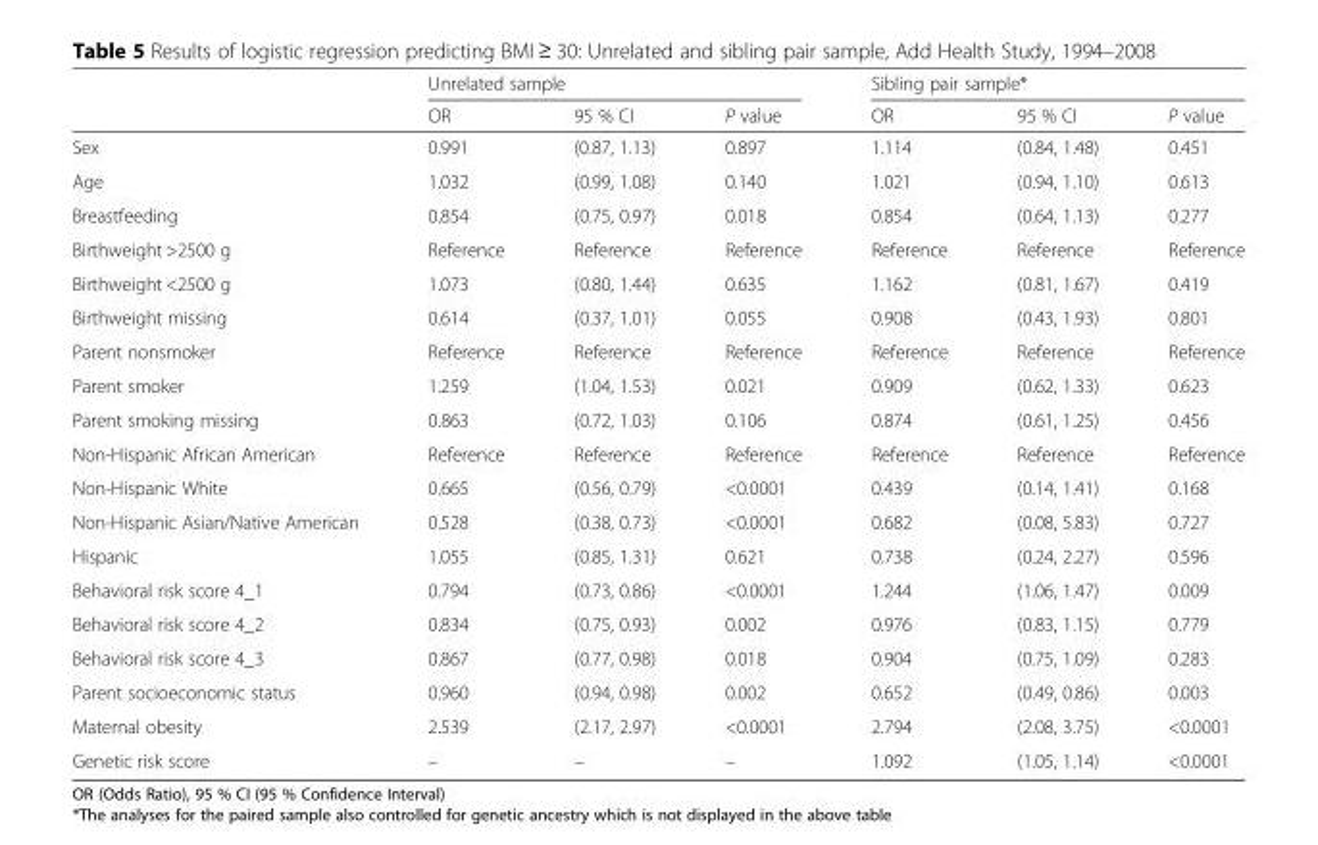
<table><thead><tr><td rowspan="2"></td><td colspan="3">Unrelated sample</td><td colspan="3">Sibling pair sample*</td></tr><tr><td>OR</td><td>95 % CI</td><td>P value</td><td>OR</td><td>95 % CI</td><td>P value</td></tr></thead><tbody><tr><td>Sex</td><td>0.991</td><td>(0.87, 1.13)</td><td>0.897</td><td>1.114</td><td>(0.84, 1.48)</td><td>0.451</td></tr><tr><td>Age</td><td>1.032</td><td>(0.99, 1.08)</td><td>0.140</td><td>1.021</td><td>(0.94, 1.10)</td><td>0.613</td></tr><tr><td>Breastfeeding</td><td>0.854</td><td>(0.75, 0.97)</td><td>0.018</td><td>0.854</td><td>(0.64, 1.13)</td><td>0.277</td></tr><tr><td>Birthweight &gt;2500 g</td><td>Reference</td><td>Reference</td><td>Reference</td><td>Reference</td><td>Reference</td><td>Reference</td></tr><tr><td>Birthweight &lt;2500 g</td><td>1.073</td><td>(0.80, 1.44)</td><td>0.635</td><td>1.162</td><td>(0.81, 1.67)</td><td>0.419</td></tr><tr><td>Birthweight missing</td><td>0.614</td><td>(0.37, 1.01)</td><td>0.055</td><td>0.908</td><td>(0.43, 1.93)</td><td>0.801</td></tr><tr><td>Parent nonsmoker</td><td>Reference</td><td>Reference</td><td>Reference</td><td>Reference</td><td>Reference</td><td>Reference</td></tr><tr><td>Parent smoker</td><td>1.259</td><td>(1.04, 1.53)</td><td>0.021</td><td>0.909</td><td>(0.62, 1.33)</td><td>0.623</td></tr><tr><td>Parent smoking missing</td><td>0.863</td><td>(0.72, 1.03)</td><td>0.106</td><td>0.874</td><td>(0.61, 1.25)</td><td>0.456</td></tr><tr><td>Non-Hispanic African American</td><td>Reference</td><td>Reference</td><td>Reference</td><td>Reference</td><td>Reference</td><td>Reference</td></tr><tr><td>Non-Hispanic White</td><td>0.665</td><td>(0.56, 0.79)</td><td>&lt;0.0001</td><td>0.439</td><td>(0.14, 1.41)</td><td>0.168</td></tr><tr><td>Non-Hispanic Asian/Native American</td><td>0.528</td><td>(0.38, 0.73)</td><td>&lt;0.0001</td><td>0.682</td><td>(0.08, 5.83)</td><td>0.727</td></tr><tr><td>Hispanic</td><td>1.055</td><td>(0.85, 1.31)</td><td>0.621</td><td>0.738</td><td>(0.24, 2.27)</td><td>0.596</td></tr><tr><td>Behavioral risk score 4_1</td><td>0.794</td><td>(0.73, 0.86)</td><td>&lt;0.0001</td><td>1.244</td><td>(1.06, 1.47)</td><td>0.009</td></tr><tr><td>Behavioral risk score 4_2</td><td>0.834</td><td>(0.75, 0.93)</td><td>0.002</td><td>0.976</td><td>(0.83, 1.15)</td><td>0.779</td></tr><tr><td>Behavioral risk score 4_3</td><td>0.867</td><td>(0.77, 0.98)</td><td>0.018</td><td>0.904</td><td>(0.75, 1.09)</td><td>0.283</td></tr><tr><td>Parent socioeconomic status</td><td>0.960</td><td>(0.94, 0.98)</td><td>0.002</td><td>0.652</td><td>(0.49, 0.86)</td><td>0.003</td></tr><tr><td>Maternal obesity</td><td>2.539</td><td>(2.17, 2.97)</td><td>&lt;0.0001</td><td>2.794</td><td>(2.08, 3.75)</td><td>&lt;0.0001</td></tr><tr><td>Genetic risk score</td><td>–</td><td>–</td><td>–</td><td>1.092</td><td>(1.05, 1.14)</td><td>&lt;0.0001</td></tr></tbody></table>